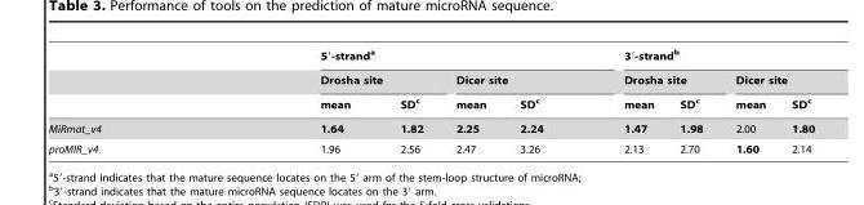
<table><thead><tr><td rowspan="3"></td><td colspan="4">5′-strand<sup>a</sup></td><td colspan="4">3′-strand<sup>b</sup></td></tr><tr><td colspan="2">Drosha site</td><td colspan="2">Dicer site</td><td colspan="2">Drosha site</td><td colspan="2">Dicer site</td></tr><tr><td>mean</td><td>SD<sup>c</sup></td><td>mean</td><td>SD<sup>c</sup></td><td>mean</td><td>SD<sup>c</sup></td><td>mean</td><td>SD<sup>c</sup></td></tr></thead><tbody><tr><td>MiRmat_v4</td><td>1.64</td><td>1.82</td><td>2.25</td><td>2.24</td><td>1.47</td><td>1.98</td><td>2.00</td><td>1.80</td></tr><tr><td>proMIR_v4</td><td>1.96</td><td>2.56</td><td>2.47</td><td>3.26</td><td>2.13</td><td>2.70</td><td>1.60</td><td>2.14</td></tr></tbody></table>